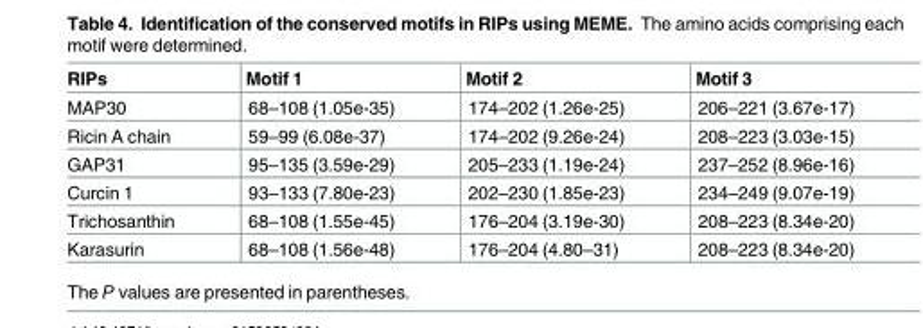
<table><thead><tr><td>RIPs</td><td>Motif 1</td><td>Motif 2</td><td>Motif 3</td></tr></thead><tbody><tr><td>MAP30</td><td>68–108 (1.05e-35)</td><td>174–202 (1.26e-25)</td><td>206–221 (3.67e-17)</td></tr><tr><td>Ricin A chain</td><td>59–99 (6.08e-37)</td><td>174–202 (9.26e-24)</td><td>208–223 (3.03e-15)</td></tr><tr><td>GAP31</td><td>95–135 (3.59e-29)</td><td>205–233 (1.19e-24)</td><td>237–252 (8.96e-16)</td></tr><tr><td>Curcin 1</td><td>93–133 (7.80e-23)</td><td>202–230 (1.85e-23)</td><td>234–249 (9.07e-19)</td></tr><tr><td>Trichosanthin</td><td>68–108 (1.55e-45)</td><td>176–204 (3.19e-30)</td><td>208–223 (8.34e-20)</td></tr><tr><td>Karasurin</td><td>68–108 (1.56e-48)</td><td>176–204 (4.80–31)</td><td>208–223 (8.34e-20)</td></tr></tbody></table>